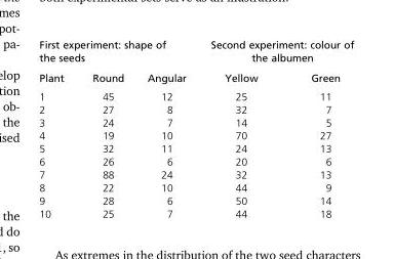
<table><thead><tr><td colspan="3">First experiment: shape of the seeds</td><td colspan="2">Second experiment: colour of the albumen</td></tr><tr><td>Plant</td><td>Round</td><td>Angular</td><td>Yellow</td><td>Green</td></tr></thead><tbody><tr><td>1</td><td>45</td><td>12</td><td>25</td><td>11</td></tr><tr><td>2</td><td>27</td><td>8</td><td>32</td><td>7</td></tr><tr><td>3</td><td>24</td><td>7</td><td>14</td><td>5</td></tr><tr><td>4</td><td>19</td><td>10</td><td>70</td><td>27</td></tr><tr><td>5</td><td>32</td><td>11</td><td>24</td><td>13</td></tr><tr><td>6</td><td>26</td><td>6</td><td>20</td><td>6</td></tr><tr><td>7</td><td>88</td><td>24</td><td>32</td><td>13</td></tr><tr><td>8</td><td>22</td><td>10</td><td>44</td><td>9</td></tr><tr><td>9</td><td>28</td><td>6</td><td>50</td><td>14</td></tr><tr><td>10</td><td>25</td><td>7</td><td>44</td><td>18</td></tr></tbody></table>